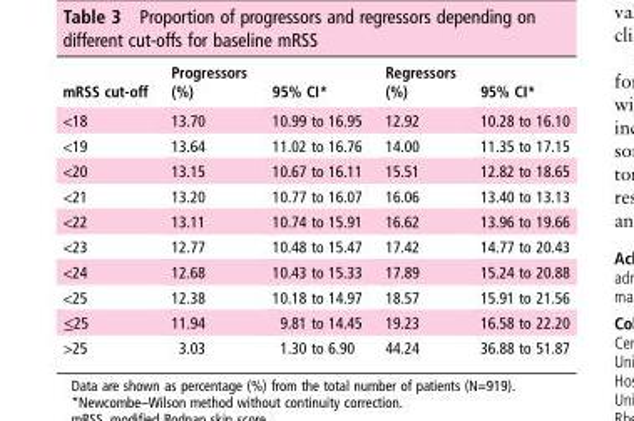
<table><thead><tr><td>mRSS cut-off</td><td>Progressors (%)</td><td>95% CI*</td><td>Regressors (%)</td><td>95% CI*</td></tr></thead><tbody><tr><td>&lt;18</td><td>13.70</td><td>10.99 to 16.95</td><td>12.92</td><td>10.28 to 16.10</td></tr><tr><td>&lt;19</td><td>13.64</td><td>11.02 to 16.76</td><td>14.00</td><td>11.35 to 17.15</td></tr><tr><td>&lt;20</td><td>13.15</td><td>10.67 to 16.11</td><td>15.51</td><td>12.82 to 18.65</td></tr><tr><td>&lt;21</td><td>13.20</td><td>10.77 to 16.07</td><td>16.06</td><td>13.40 to 13.13</td></tr><tr><td>&lt;22</td><td>13.11</td><td>10.74 to 15.91</td><td>16.62</td><td>13.96 to 19.66</td></tr><tr><td>&lt;23</td><td>12.77</td><td>10.48 to 15.47</td><td>17.42</td><td>14.77 to 20.43</td></tr><tr><td>&lt;24</td><td>12.68</td><td>10.43 to 15.33</td><td>17.89</td><td>15.24 to 20.88</td></tr><tr><td>&lt;25</td><td>12.38</td><td>10.18 to 14.97</td><td>18.57</td><td>15.91 to 21.56</td></tr><tr><td>≤25</td><td>11.94</td><td>9.81 to 14.45</td><td>19.23</td><td>16.58 to 22.20</td></tr><tr><td>&gt;25</td><td>3.03</td><td>1.30 to 6.90</td><td>44.24</td><td>36.88 to 51.87</td></tr></tbody></table>